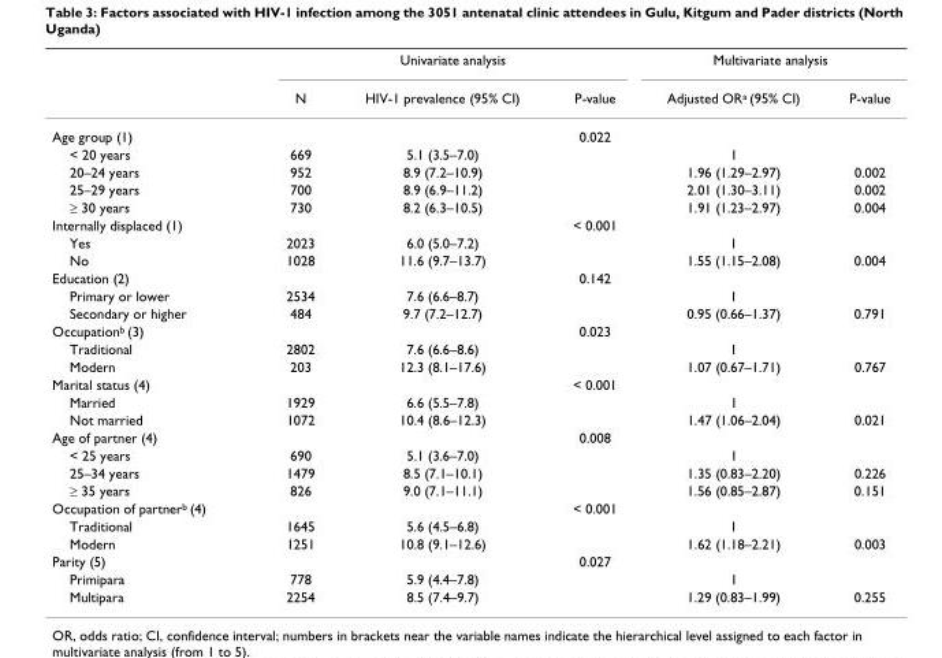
<table><thead><tr><td rowspan="2"></td><td colspan="3">Univariate analysis</td><td colspan="2">Multivariate analysis</td></tr><tr><td>N</td><td>HIV-1 prevalence (95% CI)</td><td>P-value</td><td>Adjusted OR<sup>a</sup> (95% CI)</td><td>P-value</td></tr></thead><tbody><tr><td>Age group (1)</td><td></td><td></td><td>0.022</td><td></td><td></td></tr><tr><td>&lt; 20 years</td><td>669</td><td>5.1 (3.5–7.0)</td><td></td><td>1</td><td></td></tr><tr><td>20–24 years</td><td>952</td><td>8.9 (7.2–10.9)</td><td></td><td>1.96 (1.29–2.97)</td><td>0.002</td></tr><tr><td>25–29 years</td><td>700</td><td>8.9 (6.9–11.2)</td><td></td><td>2.01 (1.30–3.11)</td><td>0.002</td></tr><tr><td>≥ 30 years</td><td>730</td><td>8.2 (6.3–10.5)</td><td></td><td>1.91 (1.23–2.97)</td><td>0.004</td></tr><tr><td>Internally displaced (1)</td><td></td><td></td><td>&lt; 0.001</td><td></td><td></td></tr><tr><td>Yes</td><td>2023</td><td>6.0 (5.0–7.2)</td><td></td><td>1</td><td></td></tr><tr><td>No</td><td>1028</td><td>11.6 (9.7–13.7)</td><td></td><td>1.55 (1.15–2.08)</td><td>0.004</td></tr><tr><td>Education (2)</td><td></td><td></td><td>0.142</td><td></td><td></td></tr><tr><td>Primary or lower</td><td>2534</td><td>7.6 (6.6–8.7)</td><td></td><td>1</td><td></td></tr><tr><td>Secondary or higher</td><td>484</td><td>9.7 (7.2–12.7)</td><td></td><td>0.95 (0.66–1.37)</td><td>0.791</td></tr><tr><td>Occupation<sup>b</sup> (3)</td><td></td><td></td><td>0.023</td><td></td><td></td></tr><tr><td>Traditional</td><td>2802</td><td>7.6 (6.6–8.6)</td><td></td><td>1</td><td></td></tr><tr><td>Modern</td><td>203</td><td>12.3 (8.1–17.6)</td><td></td><td>1.07 (0.67–1.71)</td><td>0.767</td></tr><tr><td>Marital status (4)</td><td></td><td></td><td>&lt; 0.001</td><td></td><td></td></tr><tr><td>Married</td><td>1929</td><td>6.6 (5.5–7.8)</td><td></td><td>1</td><td></td></tr><tr><td>Not married</td><td>1072</td><td>10.4 (8.6–12.3)</td><td></td><td>1.47 (1.06–2.04)</td><td>0.021</td></tr><tr><td>Age of partner (4)</td><td></td><td></td><td>0.008</td><td></td><td></td></tr><tr><td>&lt; 25 years</td><td>690</td><td>5.1 (3.6–7.0)</td><td></td><td>1</td><td></td></tr><tr><td>25–34 years</td><td>1479</td><td>8.5 (7.1–10.1)</td><td></td><td>1.35 (0.83–2.20)</td><td>0.226</td></tr><tr><td>≥ 35 years</td><td>826</td><td>9.0 (7.1–11.1)</td><td></td><td>1.56 (0.85–2.87)</td><td>0.151</td></tr><tr><td>Occupation of partner<sup>b</sup> (4)</td><td></td><td></td><td>&lt; 0.001</td><td></td><td></td></tr><tr><td>Traditional</td><td>1645</td><td>5.6 (4.5–6.8)</td><td></td><td>1</td><td></td></tr><tr><td>Modern</td><td>1251</td><td>10.8 (9.1–12.6)</td><td></td><td>1.62 (1.18–2.21)</td><td>0.003</td></tr><tr><td>Parity (5)</td><td></td><td></td><td>0.027</td><td></td><td></td></tr><tr><td>Primipara</td><td>778</td><td>5.9 (4.4–7.8)</td><td></td><td>1</td><td></td></tr><tr><td>Multipara</td><td>2254</td><td>8.5 (7.4–9.7)</td><td></td><td>1.29 (0.83–1.99)</td><td>0.255</td></tr></tbody></table>